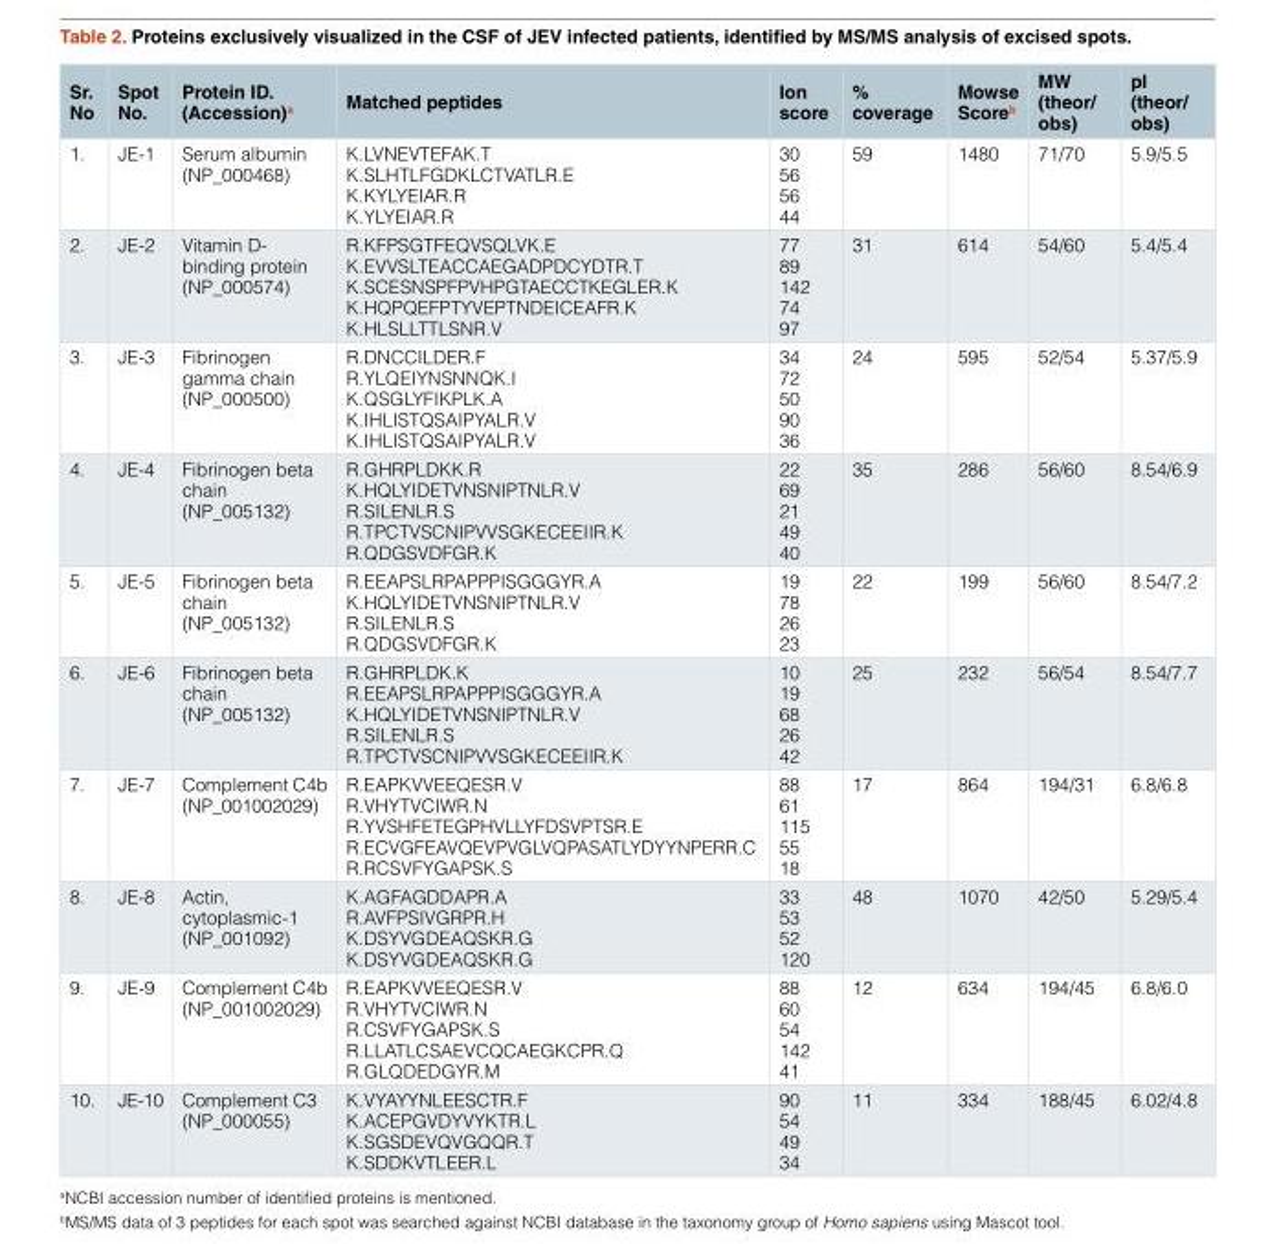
<table><thead><tr><td>Sr. No</td><td>Spot No.</td><td>Protein ID. (Accession)<sup>a</sup></td><td>Matched peptides</td><td>Ion score</td><td>% coverage</td><td>Mowse Score<sup>b</sup></td><td>MW (theor/ obs)</td><td>pI (theor/ obs)</td></tr></thead><tbody><tr><td>1.</td><td>JE-1</td><td>Serum albumin (NP_000468)</td><td>K.LVNEVTEFAK.T K.SLHTLFGDKLCTVATLR.E K.KYLYEIAR.R K.YLYEIAR.R</td><td>30 56 56 44</td><td>59</td><td>1480</td><td>71/70</td><td>5.9/5.5</td></tr><tr><td>2.</td><td>JE-2</td><td>Vitamin D- binding protein (NP_000574)</td><td>R.KFPSGTFEQVSQLVK.E K.EVVSLTEACCAEGADPDCYDTR.T K.SCESNSPFPVHPGTAECCTKEGLER.K K.HQPQEFPTYVEPTNDEICEAFR.K K.HLSLLTTLSNR.V</td><td>77 89 142 74 97</td><td>31</td><td>614</td><td>54/60</td><td>5.4/5.4</td></tr><tr><td>3.</td><td>JE-3</td><td>Fibrinogen gamma chain (NP_000500)</td><td>R.DNCCILDER.F R.YLQEIYNSNNQK.I K.QSGLYFIKPLK.A K.IHLISTQSAIPYALR.V K.IHLISTQSAIPYALR.V</td><td>34 72 50 90 36</td><td>24</td><td>595</td><td>52/54</td><td>5.37/5.9</td></tr><tr><td>4.</td><td>JE-4</td><td>Fibrinogen beta chain (NP_005132)</td><td>R.GHRPLDKK.R K.HQLYIDETVNSNIPTNLR.V R.SILENLR.S R.TPCTVSCNIPVVSGKECEEIIR.K R.QDGSVDFGR.K</td><td>22 69 21 49 40</td><td>35</td><td>286</td><td>56/60</td><td>8.54/6.9</td></tr><tr><td>5.</td><td>JE-5</td><td>Fibrinogen beta chain (NP_005132)</td><td>R.EEAPSLRPAPPPISGGGYR.A K.HQLYIDETVNSNIPTNLR.V R.SILENLR.S R.QDGSVDFGR.K</td><td>19 78 26 23</td><td>22</td><td>199</td><td>56/60</td><td>8.54/7.2</td></tr><tr><td>6.</td><td>JE-6</td><td>Fibrinogen beta chain (NP_005132)</td><td>R.GHRPLDK.K R.EEAPSLRPAPPPISGGGYR.A K.HQLYIDETVNSNIPTNLR.V R.SILENLR.S R.TPCTVSCNIPVVSGKECEEIIR.K</td><td>10 19 68 26 42</td><td>25</td><td>232</td><td>56/54</td><td>8.54/7.7</td></tr><tr><td>7.</td><td>JE-7</td><td>Complement C4b (NP_001002029)</td><td>R.EAPKVVEEQESR.V R.VHYTVCIWR.N R.YVSHFETEGPHVLLYFDSVPTSR.E R.ECVGFEAVQEVPVGLVQPASATLYDYYNPERR.C R.RCSVFYGAPSK.S</td><td>88 61 115 55 18</td><td>17</td><td>864</td><td>194/31</td><td>6.8/6.8</td></tr><tr><td>8.</td><td>JE-8</td><td>Actin, cytoplasmic-1 (NP_001092)</td><td>K.AGFAGDDAPR.A R.AVFPSIVGRPR.H K.DSYVGDEAQSKR.G K.DSYVGDEAQSKR.G</td><td>33 53 52 120</td><td>48</td><td>1070</td><td>42/50</td><td>5.29/5.4</td></tr><tr><td>9.</td><td>JE-9</td><td>Complement C4b (NP_001002029)</td><td>R.EAPKVVEEQESR.V R.VHYTVCIWR.N R.CSVFYGAPSK.S R.LLATLCSAEVCQCAEGKCPR.Q R.GLQDEDGYR.M</td><td>88 60 54 142 41</td><td>12</td><td>634</td><td>194/45</td><td>6.8/6.0</td></tr><tr><td>10.</td><td>JE-10</td><td>Complement C3 (NP_000055)</td><td>K.VYAYYNLEESCTR.F K.ACEPGVDYVYKTR.L K.SGSDEVQVGQQR.T K.SDDKVTLEER.L</td><td>90 54 49 34</td><td>11</td><td>334</td><td>188/45</td><td>6.02/4.8</td></tr></tbody></table>